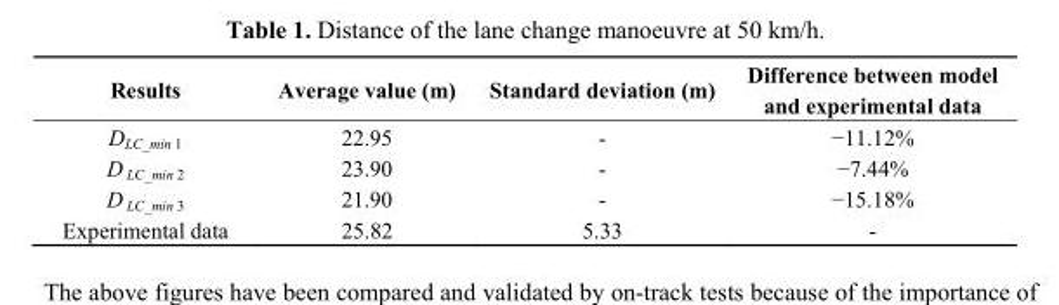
<table><thead><tr><td>Results</td><td>Average value (m)</td><td>Standard deviation (m)</td><td>Difference between model and experimental data</td></tr></thead><tbody><tr><td>D<sub>LC_min 1</sub></td><td>22.95</td><td>-</td><td>−11.12%</td></tr><tr><td>D <sub>LC_min 2</sub></td><td>23.90</td><td>-</td><td>−7.44%</td></tr><tr><td>D <sub>LC_min 3</sub></td><td>21.90</td><td>-</td><td>−15.18%</td></tr><tr><td>Experimental data</td><td>25.82</td><td>5.33</td><td>-</td></tr></tbody></table>